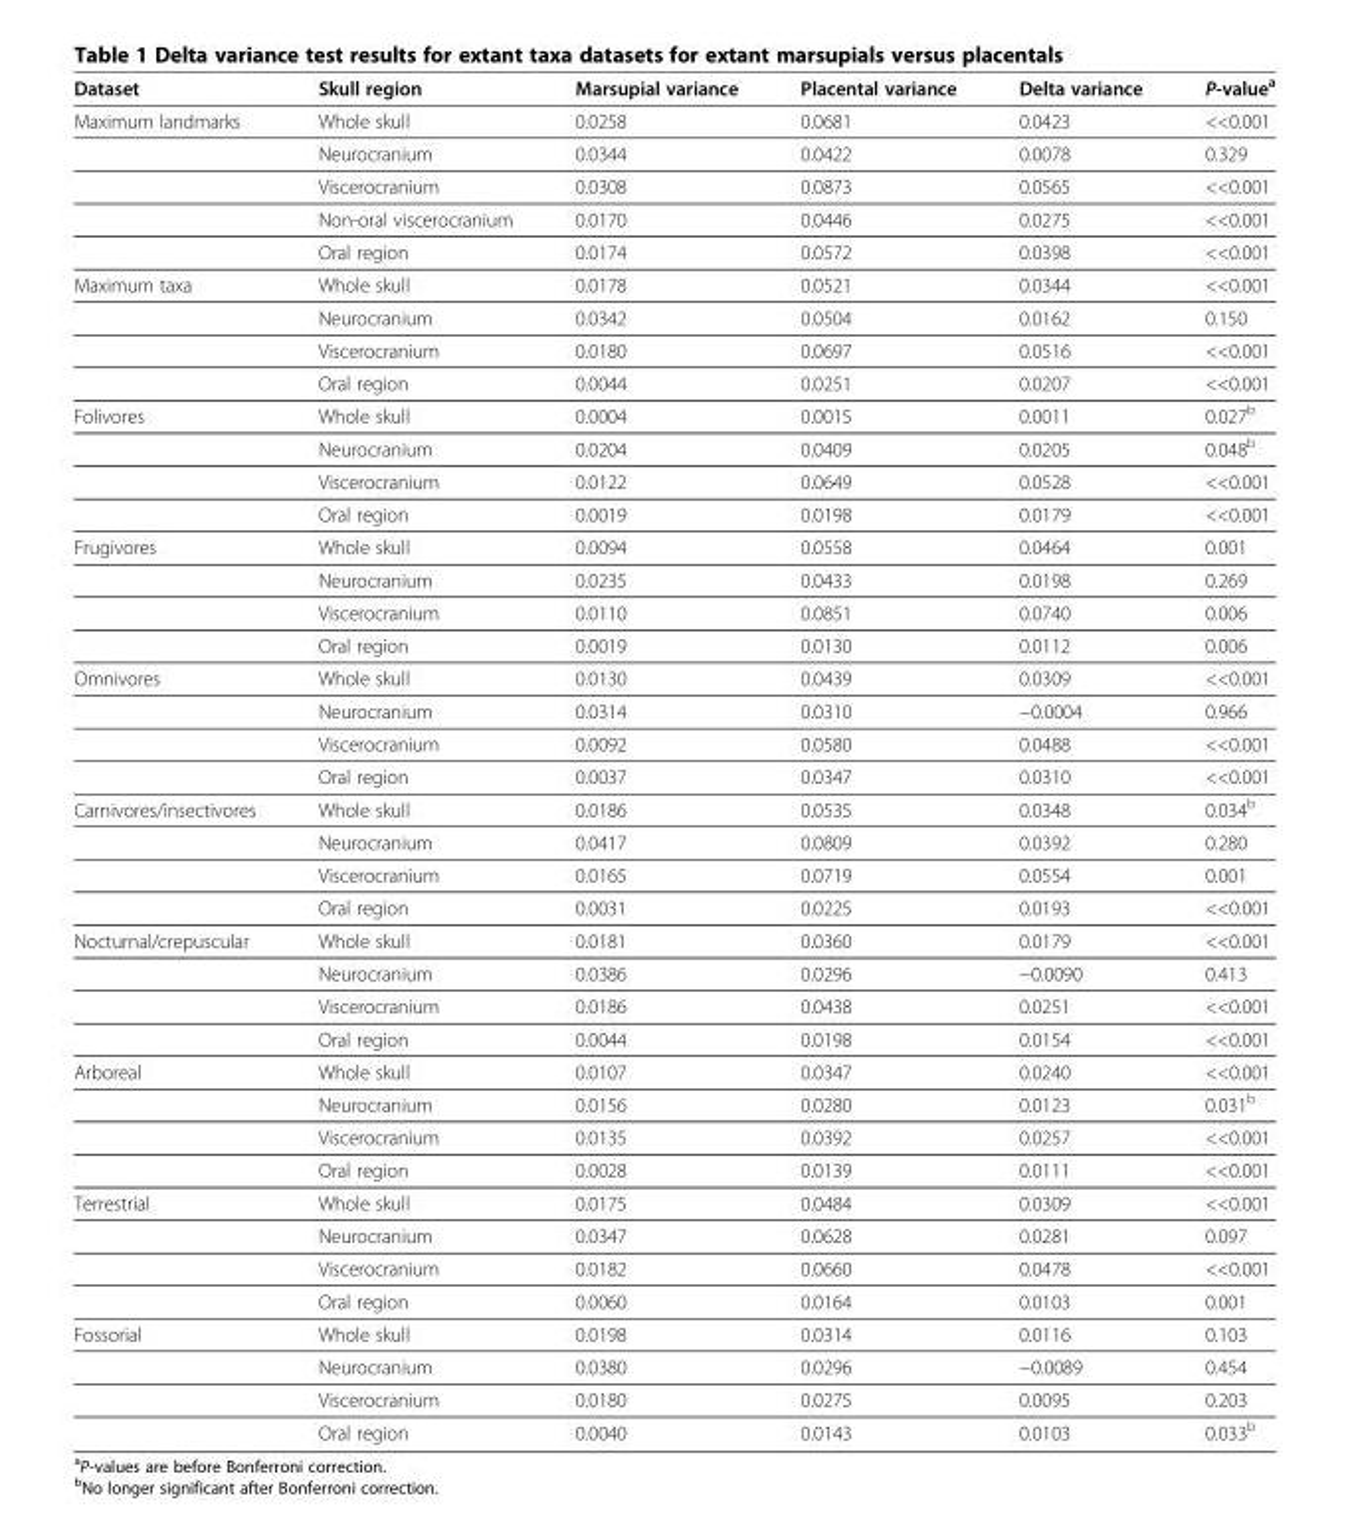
<table><thead><tr><td>Dataset</td><td>Skull region</td><td>Marsupial variance</td><td>Placental variance</td><td>Delta variance</td><td>P-value<sup>a</sup></td></tr></thead><tbody><tr><td rowspan="5">Maximum landmarks</td><td>Whole skull</td><td>0.0258</td><td>0.0681</td><td>0.0423</td><td>&lt;&lt;0.001</td></tr><tr><td>Neurocranium</td><td>0.0344</td><td>0.0422</td><td>0.0078</td><td>0.329</td></tr><tr><td>Viscerocranium</td><td>0.0308</td><td>0.0873</td><td>0.0565</td><td>&lt;&lt;0.001</td></tr><tr><td>Non-oral viscerocranium</td><td>0.0170</td><td>0.0446</td><td>0.0275</td><td>&lt;&lt;0.001</td></tr><tr><td>Oral region</td><td>0.0174</td><td>0.0572</td><td>0.0398</td><td>&lt;&lt;0.001</td></tr><tr><td rowspan="4">Maximum taxa</td><td>Whole skull</td><td>0.0178</td><td>0.0521</td><td>0.0344</td><td>&lt;&lt;0.001</td></tr><tr><td>Neurocranium</td><td>0.0342</td><td>0.0504</td><td>0.0162</td><td>0.150</td></tr><tr><td>Viscerocranium</td><td>0.0180</td><td>0.0697</td><td>0.0516</td><td>&lt;&lt;0.001</td></tr><tr><td>Oral region</td><td>0.0044</td><td>0.0251</td><td>0.0207</td><td>&lt;&lt;0.001</td></tr><tr><td rowspan="4">Folivores</td><td>Whole skull</td><td>0.0004</td><td>0.0015</td><td>0.0011</td><td>0.027<sup>b</sup></td></tr><tr><td>Neurocranium</td><td>0.0204</td><td>0.0409</td><td>0.0205</td><td>0.048<sup>b</sup></td></tr><tr><td>Viscerocranium</td><td>0.0122</td><td>0.0649</td><td>0.0528</td><td>&lt;&lt;0.001</td></tr><tr><td>Oral region</td><td>0.0019</td><td>0.0198</td><td>0.0179</td><td>&lt;&lt;0.001</td></tr><tr><td rowspan="4">Frugivores</td><td>Whole skull</td><td>0.0094</td><td>0.0558</td><td>0.0464</td><td>0.001</td></tr><tr><td>Neurocranium</td><td>0.0235</td><td>0.0433</td><td>0.0198</td><td>0.269</td></tr><tr><td>Viscerocranium</td><td>0.0110</td><td>0.0851</td><td>0.0740</td><td>0.006</td></tr><tr><td>Oral region</td><td>0.0019</td><td>0.0130</td><td>0.0112</td><td>0.006</td></tr><tr><td rowspan="4">Omnivores</td><td>Whole skull</td><td>0.0130</td><td>0.0439</td><td>0.0309</td><td>&lt;&lt;0.001</td></tr><tr><td>Neurocranium</td><td>0.0314</td><td>0.0310</td><td>−0.0004</td><td>0.966</td></tr><tr><td>Viscerocranium</td><td>0.0092</td><td>0.0580</td><td>0.0488</td><td>&lt;&lt;0.001</td></tr><tr><td>Oral region</td><td>0.0037</td><td>0.0347</td><td>0.0310</td><td>&lt;&lt;0.001</td></tr><tr><td rowspan="4">Carnivores/insectivores</td><td>Whole skull</td><td>0.0186</td><td>0.0535</td><td>0.0348</td><td>0.034<sup>b</sup></td></tr><tr><td>Neurocranium</td><td>0.0417</td><td>0.0809</td><td>0.0392</td><td>0.280</td></tr><tr><td>Viscerocranium</td><td>0.0165</td><td>0.0719</td><td>0.0554</td><td>0.001</td></tr><tr><td>Oral region</td><td>0.0031</td><td>0.0225</td><td>0.0193</td><td>&lt;&lt;0.001</td></tr><tr><td rowspan="4">Nocturnal/crepuscular</td><td>Whole skull</td><td>0.0181</td><td>0.0360</td><td>0.0179</td><td>&lt;&lt;0.001</td></tr><tr><td>Neurocranium</td><td>0.0386</td><td>0.0296</td><td>−0.0090</td><td>0.413</td></tr><tr><td>Viscerocranium</td><td>0.0186</td><td>0.0438</td><td>0.0251</td><td>&lt;&lt;0.001</td></tr><tr><td>Oral region</td><td>0.0044</td><td>0.0198</td><td>0.0154</td><td>&lt;&lt;0.001</td></tr><tr><td rowspan="4">Arboreal</td><td>Whole skull</td><td>0.0107</td><td>0.0347</td><td>0.0240</td><td>&lt;&lt;0.001</td></tr><tr><td>Neurocranium</td><td>0.0156</td><td>0.0280</td><td>0.0123</td><td>0.031<sup>b</sup></td></tr><tr><td>Viscerocranium</td><td>0.0135</td><td>0.0392</td><td>0.0257</td><td>&lt;&lt;0.001</td></tr><tr><td>Oral region</td><td>0.0028</td><td>0.0139</td><td>0.0111</td><td>&lt;&lt;0.001</td></tr><tr><td rowspan="4">Terrestrial</td><td>Whole skull</td><td>0.0175</td><td>0.0484</td><td>0.0309</td><td>&lt;&lt;0.001</td></tr><tr><td>Neurocranium</td><td>0.0347</td><td>0.0628</td><td>0.0281</td><td>0.097</td></tr><tr><td>Viscerocranium</td><td>0.0182</td><td>0.0660</td><td>0.0478</td><td>&lt;&lt;0.001</td></tr><tr><td>Oral region</td><td>0.0060</td><td>0.0164</td><td>0.0103</td><td>0.001</td></tr><tr><td rowspan="4">Fossorial</td><td>Whole skull</td><td>0.0198</td><td>0.0314</td><td>0.0116</td><td>0.103</td></tr><tr><td>Neurocranium</td><td>0.0380</td><td>0.0296</td><td>−0.0089</td><td>0.454</td></tr><tr><td>Viscerocranium</td><td>0.0180</td><td>0.0275</td><td>0.0095</td><td>0.203</td></tr><tr><td>Oral region</td><td>0.0040</td><td>0.0143</td><td>0.0103</td><td>0.033<sup>b</sup></td></tr></tbody></table>